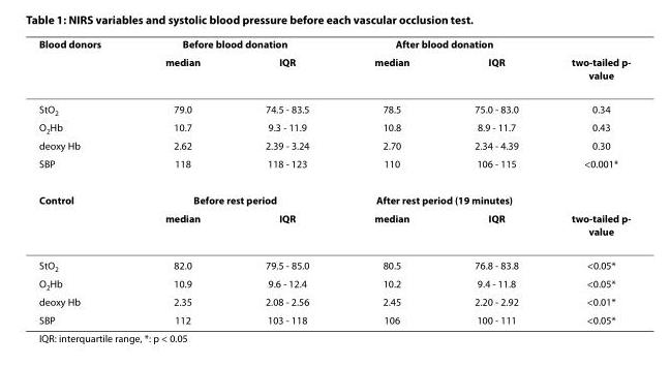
<table><thead><tr><td rowspan="2">Blood donors</td><td colspan="2">Before blood donation</td><td colspan="2">After blood donation</td><td rowspan="2">two-tailed p- value</td></tr><tr><td>median</td><td>IQR</td><td>median</td><td>IQR</td></tr></thead><tbody><tr><td>StO<sub>2</sub></td><td>79.0</td><td>74.5 - 83.5</td><td>78.5</td><td>75.0 - 83.0</td><td>0.34</td></tr><tr><td>O<sub>2</sub>Hb</td><td>10.7</td><td>9.3 - 11.9</td><td>10.8</td><td>8.9 - 11.7</td><td>0.43</td></tr><tr><td>deoxy Hb</td><td>2.62</td><td>2.39 - 3.24</td><td>2.70</td><td>2.34 - 4.39</td><td>0.30</td></tr><tr><td>SBP</td><td>118</td><td>118 - 123</td><td>110</td><td>106 - 115</td><td>&lt;0.001*</td></tr><tr><td rowspan="2">Control</td><td colspan="2">Before rest period</td><td colspan="2">After rest period (19 minutes)</td><td></td></tr><tr><td>median</td><td>IQR</td><td>median</td><td>IQR</td><td>two-tailed p- value</td></tr><tr><td>StO<sub>2</sub></td><td>82.0</td><td>79.5 - 85.0</td><td>80.5</td><td>76.8 - 83.8</td><td>&lt;0.05*</td></tr><tr><td>O<sub>2</sub>Hb</td><td>10.9</td><td>9.6 - 12.4</td><td>10.2</td><td>9.4 - 11.8</td><td>&lt;0.05*</td></tr><tr><td>deoxy Hb</td><td>2.35</td><td>2.08 - 2.56</td><td>2.45</td><td>2.20 - 2.92</td><td>&lt;0.01*</td></tr><tr><td>SBP</td><td>112</td><td>103 - 118</td><td>106</td><td>100 - 111</td><td>&lt;0.05*</td></tr></tbody></table>